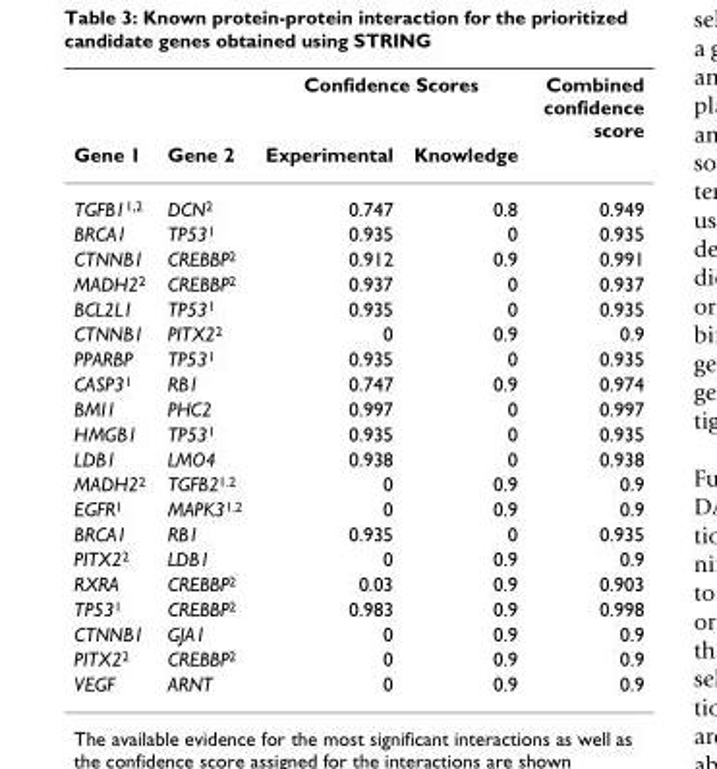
<table><thead><tr><td rowspan="2">Gene 1</td><td rowspan="2">Gene 2</td><td colspan="2">Confidence Scores</td><td rowspan="2">Combined confidence score</td></tr><tr><td>Experimental</td><td>Knowledge</td></tr></thead><tbody><tr><td>TGFB1<sup>1,2</sup></td><td>DCN<sup>2</sup></td><td>0.747</td><td>0.8</td><td>0.949</td></tr><tr><td>BRCA1</td><td>TP53<sup>1</sup></td><td>0.935</td><td>0</td><td>0.935</td></tr><tr><td>CTNNB1</td><td>CREBBP<sup>2</sup></td><td>0.912</td><td>0.9</td><td>0.991</td></tr><tr><td>MADH2<sup>2</sup></td><td>CREBBP<sup>2</sup></td><td>0.937</td><td>0</td><td>0.937</td></tr><tr><td>BCL2L1</td><td>TP53<sup>1</sup></td><td>0.935</td><td>0</td><td>0.935</td></tr><tr><td>CTNNB1</td><td>PITX2<sup>2</sup></td><td>0</td><td>0.9</td><td>0.9</td></tr><tr><td>PPARBP</td><td>TP53<sup>1</sup></td><td>0.935</td><td>0</td><td>0.935</td></tr><tr><td>CASP3<sup>1</sup></td><td>RB1</td><td>0.747</td><td>0.9</td><td>0.974</td></tr><tr><td>BMI1</td><td>PHC2</td><td>0.997</td><td>0</td><td>0.997</td></tr><tr><td>HMGB1</td><td>TP53<sup>1</sup></td><td>0.935</td><td>0</td><td>0.935</td></tr><tr><td>LDB1</td><td>LMO4</td><td>0.938</td><td>0</td><td>0.938</td></tr><tr><td>MADH2<sup>2</sup></td><td>TGFB2<sup>1.2</sup></td><td>0</td><td>0.9</td><td>0.9</td></tr><tr><td>EGFR<sup>1</sup></td><td>MAPK3<sup>1,2</sup></td><td>0</td><td>0.9</td><td>0.9</td></tr><tr><td>BRCA1</td><td>RB1</td><td>0.935</td><td>0</td><td>0.935</td></tr><tr><td>PITX2<sup>2</sup></td><td>LDB1</td><td>0</td><td>0.9</td><td>0.9</td></tr><tr><td>RXRA</td><td>CREBBP<sup>2</sup></td><td>0.03</td><td>0.9</td><td>0.903</td></tr><tr><td>TP53<sup>1</sup></td><td>CREBBP<sup>2</sup></td><td>0.983</td><td>0.9</td><td>0.998</td></tr><tr><td>CTNNB1</td><td>GJA1</td><td>0</td><td>0.9</td><td>0.9</td></tr><tr><td>PITX2<sup>2</sup></td><td>CREBBP<sup>2</sup></td><td>0</td><td>0.9</td><td>0.9</td></tr><tr><td>VEGF</td><td>ARNT</td><td>0</td><td>0.9</td><td>0.9</td></tr></tbody></table>